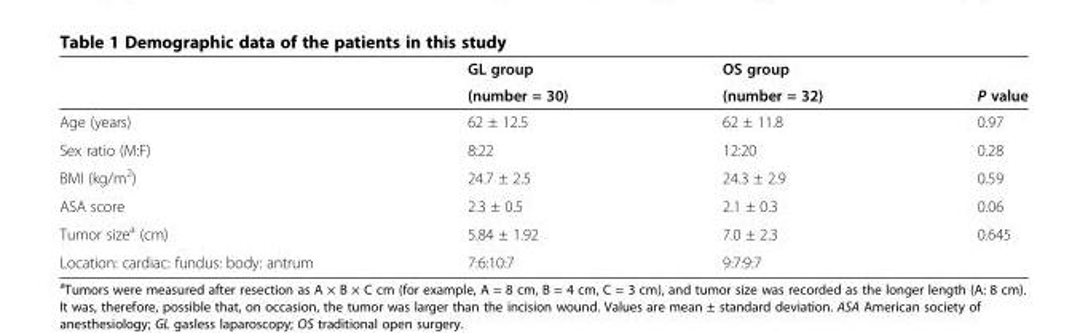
<table><thead><tr><td rowspan="2"></td><td rowspan="2">GL group (number = 30)</td><td rowspan="2">OS group (number = 32)</td><td rowspan="2">P value</td></tr><tr></tr></thead><tbody><tr><td>Age (years)</td><td>62 ± 12.5</td><td>62 ± 11.8</td><td>0.97</td></tr><tr><td>Sex ratio (M:F)</td><td>8:22</td><td>12:20</td><td>0.28</td></tr><tr><td>BMI (kg/m<sup>2</sup>)</td><td>24.7 ± 2.5</td><td>24.3 ± 2.9</td><td>0.59</td></tr><tr><td>ASA score</td><td>2.3 ± 0.5</td><td>2.1 ± 0.3</td><td>0.06</td></tr><tr><td>Tumor size<sup>a</sup> (cm)</td><td>5.84 ± 1.92</td><td>7.0 ± 2.3</td><td>0.645</td></tr><tr><td>Location: cardiac: fundus: body: antrum</td><td>7:6:10:7</td><td>9:7:9:7</td><td></td></tr></tbody></table>